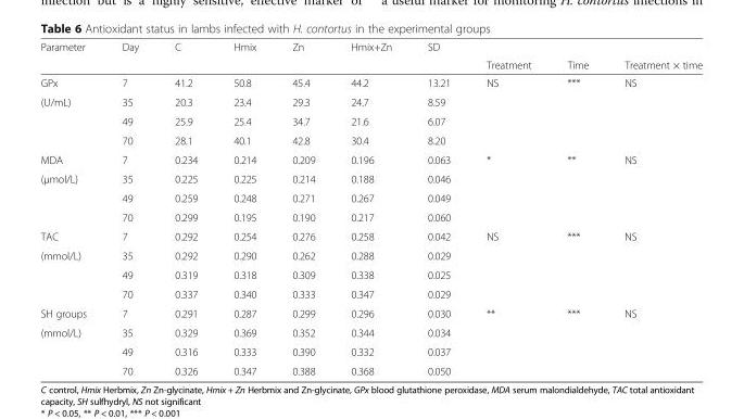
<table><thead><tr><td rowspan="2">Parameter</td><td rowspan="2">Day</td><td rowspan="2">C</td><td rowspan="2">Hmix</td><td rowspan="2">Zn</td><td rowspan="2">Hmix+Zn</td><td rowspan="2">SD</td><td rowspan="2">Treatment</td><td rowspan="2">Time</td><td rowspan="2">Treatment × time</td></tr><tr></tr></thead><tbody><tr><td>GPx</td><td>7</td><td>41.2</td><td>50.8</td><td>45.4</td><td>44.2</td><td>13.21</td><td>NS</td><td>***</td><td>NS</td></tr><tr><td rowspan="3">(U/mL)</td><td>35</td><td>20.3</td><td>23.4</td><td>29.3</td><td>24.7</td><td>8.59</td><td></td><td></td><td></td></tr><tr><td>49</td><td>25.9</td><td>25.4</td><td>34.7</td><td>21.6</td><td>6.07</td><td></td><td></td><td></td></tr><tr><td>70</td><td>28.1</td><td>40.1</td><td>42.8</td><td>30.4</td><td>8.20</td><td></td><td></td><td></td></tr><tr><td>MDA</td><td>7</td><td>0.234</td><td>0.214</td><td>0.209</td><td>0.196</td><td>0.063</td><td>*</td><td>**</td><td>NS</td></tr><tr><td rowspan="3">(μmol/L)</td><td>35</td><td>0.225</td><td>0.225</td><td>0.214</td><td>0.188</td><td>0.046</td><td></td><td></td><td></td></tr><tr><td>49</td><td>0.259</td><td>0.248</td><td>0.271</td><td>0.267</td><td>0.049</td><td></td><td></td><td></td></tr><tr><td>70</td><td>0.299</td><td>0.195</td><td>0.190</td><td>0.217</td><td>0.060</td><td></td><td></td><td></td></tr><tr><td>TAC</td><td>7</td><td>0.292</td><td>0.254</td><td>0.276</td><td>0.258</td><td>0.042</td><td>NS</td><td>***</td><td>NS</td></tr><tr><td rowspan="3">(mmol/L)</td><td>35</td><td>0.292</td><td>0.290</td><td>0.262</td><td>0.288</td><td>0.029</td><td></td><td></td><td></td></tr><tr><td>49</td><td>0.319</td><td>0.318</td><td>0.309</td><td>0.338</td><td>0.025</td><td></td><td></td><td></td></tr><tr><td>70</td><td>0.337</td><td>0.340</td><td>0.333</td><td>0.347</td><td>0.029</td><td></td><td></td><td></td></tr><tr><td>SH groups</td><td>7</td><td>0.291</td><td>0.287</td><td>0.299</td><td>0.296</td><td>0.030</td><td>**</td><td>***</td><td>NS</td></tr><tr><td rowspan="3">(mmol/L)</td><td>35</td><td>0.329</td><td>0.369</td><td>0.352</td><td>0.344</td><td>0.034</td><td></td><td></td><td></td></tr><tr><td>49</td><td>0.316</td><td>0.333</td><td>0.390</td><td>0.332</td><td>0.037</td><td></td><td></td><td></td></tr><tr><td>70</td><td>0.326</td><td>0.347</td><td>0.388</td><td>0.368</td><td>0.050</td><td></td><td></td><td></td></tr></tbody></table>